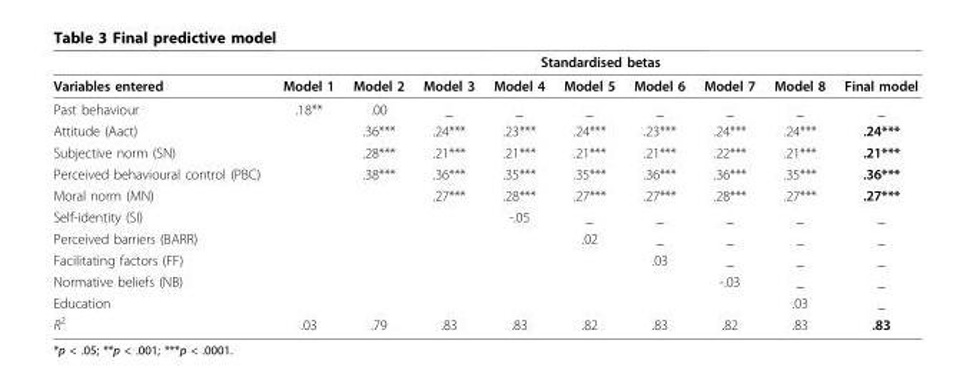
<table><thead><tr><td rowspan="2">Variables entered</td><td colspan="9">Standardised betas</td></tr><tr><td>Model 1</td><td>Model 2</td><td>Model 3</td><td>Model 4</td><td>Model 5</td><td>Model 6</td><td>Model 7</td><td>Model 8</td><td>Final model</td></tr></thead><tbody><tr><td>Past behaviour</td><td>.18**</td><td>.00</td><td>_</td><td>_</td><td>_</td><td>_</td><td>_</td><td>_</td><td>_</td></tr><tr><td>Attitude (Aact)</td><td></td><td>.36***</td><td>.24***</td><td>.23***</td><td>.24***</td><td>.23***</td><td>.24***</td><td>.24***</td><td>.24***</td></tr><tr><td>Subjective norm (SN)</td><td></td><td>.28***</td><td>.21***</td><td>.21***</td><td>.21***</td><td>.21***</td><td>.22***</td><td>.21***</td><td>.21***</td></tr><tr><td>Perceived behavioural control (PBC)</td><td></td><td>.38***</td><td>.36***</td><td>.35***</td><td>.35***</td><td>.36***</td><td>.36***</td><td>.35***</td><td>.36***</td></tr><tr><td>Moral norm (MN)</td><td></td><td></td><td>.27***</td><td>.28***</td><td>.27***</td><td>.27***</td><td>.28***</td><td>.27***</td><td>.27***</td></tr><tr><td>Self-identity (SI)</td><td></td><td></td><td></td><td>-.05</td><td>_</td><td>_</td><td>_</td><td>_</td><td>_</td></tr><tr><td>Perceived barriers (BARR)</td><td></td><td></td><td></td><td></td><td>.02</td><td>_</td><td>_</td><td>_</td><td>_</td></tr><tr><td>Facilitating factors (FF)</td><td></td><td></td><td></td><td></td><td></td><td>.03</td><td>_</td><td>_</td><td>_</td></tr><tr><td>Normative beliefs (NB)</td><td></td><td></td><td></td><td></td><td></td><td></td><td>-.03</td><td>_</td><td>_</td></tr><tr><td>Education</td><td></td><td></td><td></td><td></td><td></td><td></td><td></td><td>.03</td><td>_</td></tr><tr><td>R<sup>2</sup></td><td>.03</td><td>.79</td><td>.83</td><td>.83</td><td>.82</td><td>.83</td><td>.82</td><td>.83</td><td>.83</td></tr></tbody></table>